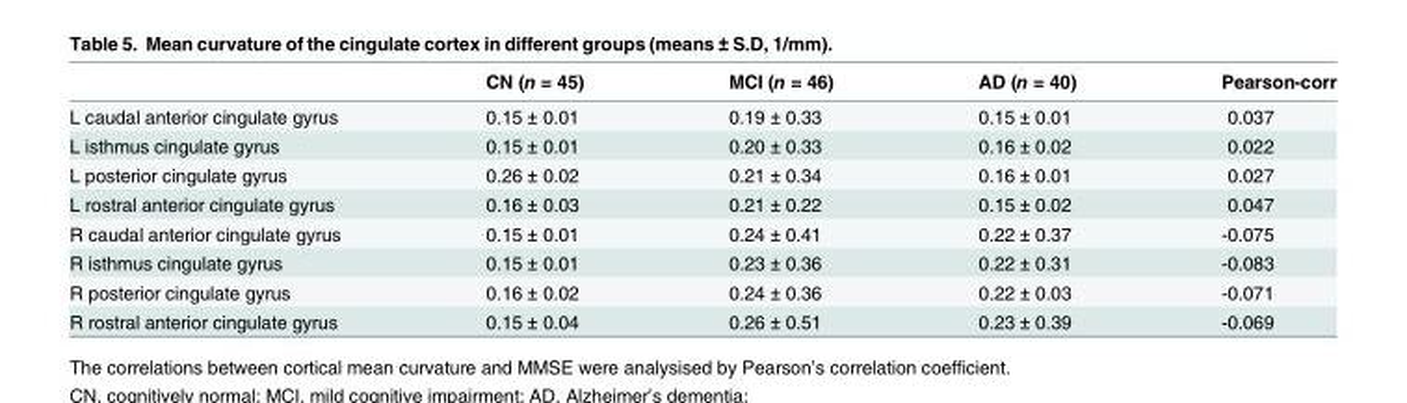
<table><thead><tr><td></td><td>CN (n = 45)</td><td>MCI (n = 46)</td><td>AD (n = 40)</td><td>Pearson-corr</td></tr></thead><tbody><tr><td>L caudal anterior cingulate gyrus</td><td>0.15 ± 0.01</td><td>0.19 ± 0.33</td><td>0.15 ± 0.01</td><td>0.037</td></tr><tr><td>L isthmus cingulate gyrus</td><td>0.15 ± 0.01</td><td>0.20 ± 0.33</td><td>0.16 ± 0.02</td><td>0.022</td></tr><tr><td>L posterior cingulate gyrus</td><td>0.26 ± 0.02</td><td>0.21 ± 0.34</td><td>0.16 ± 0.01</td><td>0.027</td></tr><tr><td>L rostral anterior cingulate gyrus</td><td>0.16 ± 0.03</td><td>0.21 ± 0.22</td><td>0.15 ± 0.02</td><td>0.047</td></tr><tr><td>R caudal anterior cingulate gyrus</td><td>0.15 ± 0.01</td><td>0.24 ± 0.41</td><td>0.22 ± 0.37</td><td>-0.075</td></tr><tr><td>R isthmus cingulate gyrus</td><td>0.15 ± 0.01</td><td>0.23 ± 0.36</td><td>0.22 ± 0.31</td><td>-0.083</td></tr><tr><td>R posterior cingulate gyrus</td><td>0.16 ± 0.02</td><td>0.24 ± 0.36</td><td>0.22 ± 0.03</td><td>-0.071</td></tr><tr><td>R rostral anterior cingulate gyrus</td><td>0.15 ± 0.04</td><td>0.26 ± 0.51</td><td>0.23 ± 0.39</td><td>-0.069</td></tr></tbody></table>